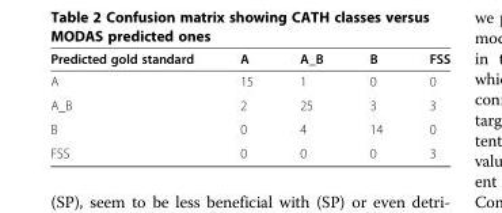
<table><thead><tr><td>Predicted gold standard</td><td>A</td><td>A_B</td><td>B</td><td>FSS</td></tr></thead><tbody><tr><td>A</td><td>15</td><td>1</td><td>0</td><td>0</td></tr><tr><td>A_B</td><td>2</td><td>25</td><td>3</td><td>3</td></tr><tr><td>B</td><td>0</td><td>4</td><td>14</td><td>0</td></tr><tr><td>FSS</td><td>0</td><td>0</td><td>0</td><td>3</td></tr></tbody></table>